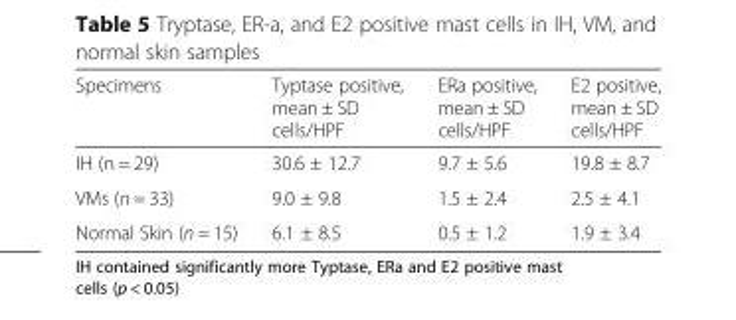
<table><thead><tr><td>Specimens</td><td>Typtase positive, mean ± SD cells/HPF</td><td>ERa positive, mean ± SD cells/HPF</td><td>E2 positive, mean ± SD cells/HPF</td></tr></thead><tbody><tr><td>IH (n = 29)</td><td>30.6 ± 12.7</td><td>9.7 ± 5.6</td><td>19.8 ± 8.7</td></tr><tr><td>VMs (n = 33)</td><td>9.0 ± 9.8</td><td>1.5 ± 2.4</td><td>2.5 ± 4.1</td></tr><tr><td>Normal Skin (n = 15)</td><td>6.1 ± 8.5</td><td>0.5 ± 1.2</td><td>1.9 ± 3.4</td></tr></tbody></table>